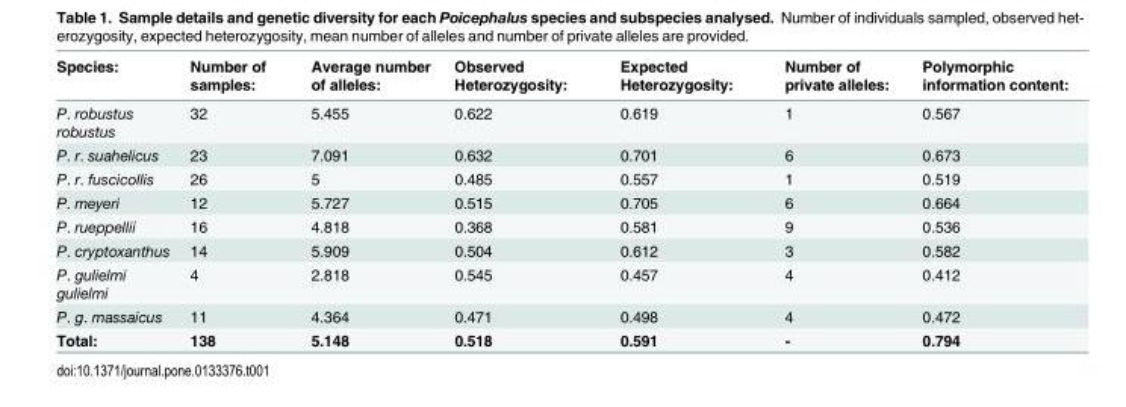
<table><thead><tr><td>Species:</td><td>Number of samples:</td><td>Average number of alleles:</td><td>Observed Heterozygosity:</td><td>Expected Heterozygosity:</td><td>Number of private alleles:</td><td>Polymorphic information content:</td></tr></thead><tbody><tr><td>P. robustus robustus</td><td>32</td><td>5.455</td><td>0.622</td><td>0.619</td><td>1</td><td>0.567</td></tr><tr><td>P. r. suahelicus</td><td>23</td><td>7.091</td><td>0.632</td><td>0.701</td><td>6</td><td>0.673</td></tr><tr><td>P. r. fuscicollis</td><td>26</td><td>5</td><td>0.485</td><td>0.557</td><td>1</td><td>0.519</td></tr><tr><td>P. meyeri</td><td>12</td><td>5.727</td><td>0.515</td><td>0.705</td><td>6</td><td>0.664</td></tr><tr><td>P. rueppellii</td><td>16</td><td>4.818</td><td>0.368</td><td>0.581</td><td>9</td><td>0.536</td></tr><tr><td>P. cryptoxanthus</td><td>14</td><td>5.909</td><td>0.504</td><td>0.612</td><td>3</td><td>0.582</td></tr><tr><td>P. gulielmi gulielmi</td><td>4</td><td>2.818</td><td>0.545</td><td>0.457</td><td>4</td><td>0.412</td></tr><tr><td>P. g. massaicus</td><td>11</td><td>4.364</td><td>0.471</td><td>0.498</td><td>4</td><td>0.472</td></tr><tr><td>Total:</td><td>138</td><td>5.148</td><td>0.518</td><td>0.591</td><td>-</td><td>0.794</td></tr></tbody></table>